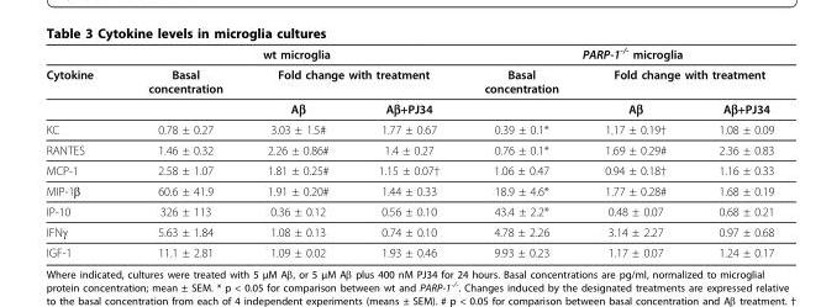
<table><thead><tr><td rowspan="3">Cytokine</td><td colspan="3">wt microglia</td><td colspan="3">PARP-1<sup>-/-</sup> microglia</td></tr><tr><td rowspan="2">Basal concentration</td><td colspan="2">Fold change with treatment</td><td rowspan="2">Basal concentration</td><td colspan="2">Fold change with treatment</td></tr><tr><td>Aβ</td><td>Aβ+PJ34</td><td>Aβ</td><td>Aβ+PJ34</td></tr></thead><tbody><tr><td>KC</td><td>0.78 ± 0.27</td><td>3.03 ± 1.5#</td><td>1.77 ± 0.67</td><td>0.39 ± 0.1*</td><td>1.17 ± 0.19†</td><td>1.08 ± 0.09</td></tr><tr><td>RANTES</td><td>1.46 ± 0.32</td><td>2.26 ± 0.86#</td><td>1.4 ± 0.27</td><td>0.76 ± 0.1*</td><td>1.69 ± 0.29#</td><td>2.36 ± 0.83</td></tr><tr><td>MCP-1</td><td>2.58 ± 1.07</td><td>1.81 ± 0.25#</td><td>1.15 ± 0.07†</td><td>1.06 ± 0.47</td><td>0.94 ± 0.18†</td><td>1.16 ± 0.33</td></tr><tr><td>MIP-1β</td><td>60.6 ± 41.9</td><td>1.91 ± 0.20#</td><td>1.44 ± 0.33</td><td>18.9 ± 4.6*</td><td>1.77 ± 0.28#</td><td>1.68 ± 0.19</td></tr><tr><td>IP-10</td><td>326 ± 113</td><td>0.36 ± 0.12</td><td>0.56 ± 0.10</td><td>43.4 ± 2.2*</td><td>0.48 ± 0.07</td><td>0.68 ± 0.21</td></tr><tr><td>IFNγ</td><td>5.63 ± 1.84</td><td>1.08 ± 0.13</td><td>0.74 ± 0.10</td><td>4.78 ± 2.26</td><td>3.14 ± 2.27</td><td>0.97 ± 0.68</td></tr><tr><td>IGF-1</td><td>11.1 ± 2.81</td><td>1.09 ± 0.02</td><td>1.93 ± 0.46</td><td>9.93 ± 0.23</td><td>1.17 ± 0.07</td><td>1.24 ± 0.17</td></tr></tbody></table>